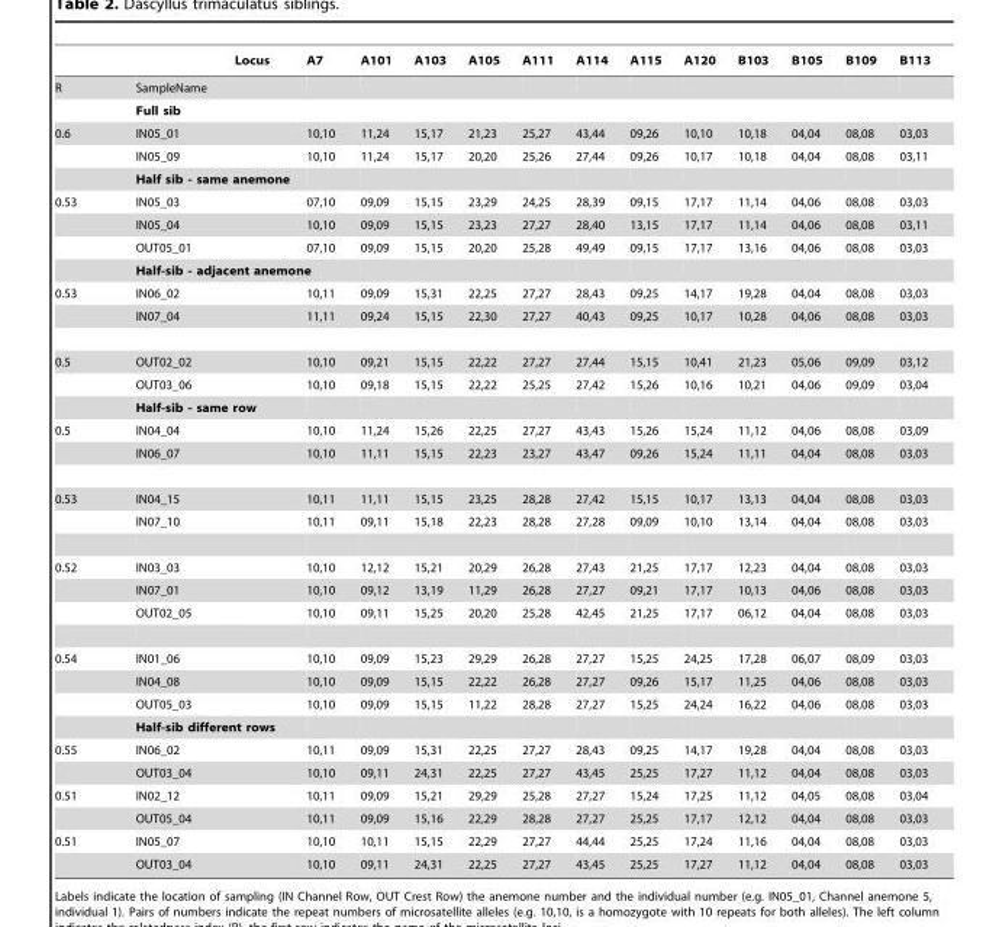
<table><thead><tr><td></td><td></td><td>Locus</td><td>A7</td><td>A101</td><td>A103</td><td>A105</td><td>A111</td><td>A114</td><td>A115</td><td>A120</td><td>B103</td><td>B105</td><td>B109</td><td>B113</td></tr></thead><tbody><tr><td rowspan="2">R</td><td>SampleName</td><td></td><td></td><td></td><td></td><td></td><td></td><td></td><td></td><td></td><td></td><td></td><td></td><td></td></tr><tr><td>Full sib</td><td></td><td></td><td></td><td></td><td></td><td></td><td></td><td></td><td></td><td></td><td></td><td></td><td></td></tr><tr><td rowspan="3">0.6</td><td>IN05_01</td><td></td><td>10,10</td><td>11,24</td><td>15,17</td><td>21,23</td><td>25,27</td><td>43,44</td><td>09,26</td><td>10,10</td><td>10,18</td><td>04,04</td><td>08,08</td><td>03,03</td></tr><tr><td>IN05_09</td><td></td><td>10,10</td><td>11,24</td><td>15,17</td><td>20,20</td><td>25,26</td><td>27,44</td><td>09,26</td><td>10,17</td><td>10,18</td><td>04,04</td><td>08,08</td><td>03,11</td></tr><tr><td colspan="2">Half sib - same anemone</td><td></td><td></td><td></td><td></td><td></td><td></td><td></td><td></td><td></td><td></td><td></td><td></td></tr><tr><td rowspan="4">0.53</td><td>IN05_03</td><td></td><td>07,10</td><td>09,09</td><td>15,15</td><td>23,29</td><td>24,25</td><td>28,39</td><td>09,15</td><td>17,17</td><td>11,14</td><td>04,06</td><td>08,08</td><td>03,03</td></tr><tr><td>IN05_04</td><td></td><td>10,10</td><td>09,09</td><td>15,15</td><td>23,23</td><td>27,27</td><td>28,40</td><td>13,15</td><td>17,17</td><td>11,14</td><td>04,06</td><td>08,08</td><td>03,11</td></tr><tr><td>OUT05_01</td><td></td><td>07,10</td><td>09,09</td><td>15,15</td><td>20,20</td><td>25,28</td><td>49,49</td><td>09,15</td><td>17,17</td><td>13,16</td><td>04,06</td><td>08,08</td><td>03,03</td></tr><tr><td colspan="3">Half-sib - adjacent anemone</td><td></td><td></td><td></td><td></td><td></td><td></td><td></td><td></td><td></td><td></td><td></td></tr><tr><td rowspan="2">0.53</td><td>IN06_02</td><td></td><td>10,11</td><td>09,09</td><td>15,31</td><td>22,25</td><td>27,27</td><td>28,43</td><td>09,25</td><td>14,17</td><td>19,28</td><td>04,04</td><td>08,08</td><td>03,03</td></tr><tr><td>IN07_04</td><td></td><td>11,11</td><td>09,24</td><td>15,15</td><td>22,30</td><td>27,27</td><td>40,43</td><td>09,25</td><td>10,17</td><td>10,28</td><td>04,06</td><td>08,08</td><td>03,03</td></tr><tr><td rowspan="3">0.5</td><td>OUT02_02</td><td></td><td>10,10</td><td>09,21</td><td>15,15</td><td>22,22</td><td>27,27</td><td>27,44</td><td>15,15</td><td>10,41</td><td>21,23</td><td>05,06</td><td>09,09</td><td>03,12</td></tr><tr><td>OUT03_06</td><td></td><td>10,10</td><td>09,18</td><td>15,15</td><td>22,22</td><td>25,25</td><td>27,42</td><td>15,26</td><td>10,16</td><td>10,21</td><td>04,06</td><td>09,09</td><td>03,04</td></tr><tr><td colspan="2">Half-sib - same row</td><td></td><td></td><td></td><td></td><td></td><td></td><td></td><td></td><td></td><td></td><td></td><td></td></tr><tr><td rowspan="2">0.5</td><td>IN04_04</td><td></td><td>10,10</td><td>11,24</td><td>15,26</td><td>22,25</td><td>27,27</td><td>43,43</td><td>15,26</td><td>15,24</td><td>11,12</td><td>04,06</td><td>08,08</td><td>03,09</td></tr><tr><td>IN06_07</td><td></td><td>10,10</td><td>11,11</td><td>15,15</td><td>22,23</td><td>23,27</td><td>43,47</td><td>09,26</td><td>15,24</td><td>11,11</td><td>04,04</td><td>08,08</td><td>03,03</td></tr><tr><td rowspan="2">0.53</td><td>IN04_15</td><td></td><td>10,11</td><td>11,11</td><td>15,15</td><td>23,25</td><td>28,28</td><td>27,42</td><td>15,15</td><td>10,17</td><td>13,13</td><td>04,04</td><td>08,08</td><td>03,03</td></tr><tr><td>IN07_10</td><td></td><td>10,11</td><td>09,11</td><td>15,18</td><td>22,23</td><td>28,28</td><td>27,28</td><td>09,09</td><td>10,10</td><td>13,14</td><td>04,04</td><td>08,08</td><td>03,03</td></tr><tr><td rowspan="3">0.52</td><td>IN03_03</td><td></td><td>10,10</td><td>12,12</td><td>15,21</td><td>20,29</td><td>26,28</td><td>27,43</td><td>21,25</td><td>17,17</td><td>12,23</td><td>04,04</td><td>08,08</td><td>03,03</td></tr><tr><td>IN07_01</td><td></td><td>10,10</td><td>09,12</td><td>13,19</td><td>11,29</td><td>26,28</td><td>27,27</td><td>09,21</td><td>17,17</td><td>10,13</td><td>04,06</td><td>08,08</td><td>03,03</td></tr><tr><td>OUT02_05</td><td></td><td>10,10</td><td>09,11</td><td>15,25</td><td>20,20</td><td>25,28</td><td>42,45</td><td>21,25</td><td>17,17</td><td>06,12</td><td>04,04</td><td>08,08</td><td>03,03</td></tr><tr><td rowspan="4">0.54</td><td>IN01_06</td><td></td><td>10,10</td><td>09,09</td><td>15,23</td><td>29,29</td><td>26,28</td><td>27,27</td><td>15,25</td><td>24,25</td><td>17,28</td><td>06,07</td><td>08,09</td><td>03,03</td></tr><tr><td>IN04_08</td><td></td><td>10,10</td><td>09,09</td><td>15,15</td><td>22,22</td><td>26,28</td><td>27,27</td><td>09,26</td><td>15,17</td><td>11,25</td><td>04,06</td><td>08,08</td><td>03,03</td></tr><tr><td>OUT05_03</td><td></td><td>10,10</td><td>09,09</td><td>15,15</td><td>11,22</td><td>28,28</td><td>27,27</td><td>15,25</td><td>24,24</td><td>16,22</td><td>04,06</td><td>08,08</td><td>03,03</td></tr><tr><td colspan="2">Half-sib different rows</td><td></td><td></td><td></td><td></td><td></td><td></td><td></td><td></td><td></td><td></td><td></td><td></td></tr><tr><td rowspan="2">0.55</td><td>IN06_02</td><td></td><td>10,11</td><td>09,09</td><td>15,31</td><td>22,25</td><td>27,27</td><td>28,43</td><td>09,25</td><td>14,17</td><td>19,28</td><td>04,04</td><td>08,08</td><td>03,03</td></tr><tr><td>OUT03_04</td><td></td><td>10,10</td><td>09,11</td><td>24,31</td><td>22,25</td><td>27,27</td><td>43,45</td><td>25,25</td><td>17,27</td><td>11,12</td><td>04,04</td><td>08,08</td><td>03,03</td></tr><tr><td rowspan="2">0.51</td><td>IN02_12</td><td></td><td>10,11</td><td>09,09</td><td>15,21</td><td>29,29</td><td>25,28</td><td>27,27</td><td>15,24</td><td>17,25</td><td>11,12</td><td>04,05</td><td>08,08</td><td>03,04</td></tr><tr><td>OUT05_04</td><td></td><td>10,11</td><td>09,09</td><td>15,16</td><td>22,29</td><td>28,28</td><td>27,27</td><td>25,25</td><td>17,17</td><td>12,12</td><td>04,04</td><td>08,08</td><td>03,03</td></tr><tr><td rowspan="2">0.51</td><td>IN05_07</td><td></td><td>10,10</td><td>10,11</td><td>15,15</td><td>22,29</td><td>27,27</td><td>44,44</td><td>25,25</td><td>17,24</td><td>11,16</td><td>04,04</td><td>08,08</td><td>03,03</td></tr><tr><td>OUT03_04</td><td></td><td>10,10</td><td>09,11</td><td>24,31</td><td>22,25</td><td>27,27</td><td>43,45</td><td>25,25</td><td>17,27</td><td>11,12</td><td>04,04</td><td>08,08</td><td>03,03</td></tr></tbody></table>